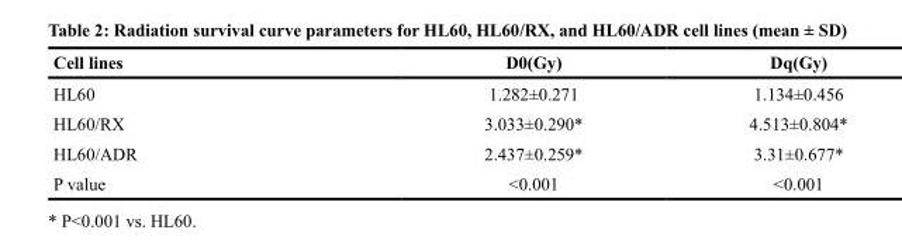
<table><thead><tr><td>Cell lines</td><td>D0(Gy)</td><td>Dq(Gy)</td></tr></thead><tbody><tr><td>HL60</td><td>1.282±0.271</td><td>1.134±0.456</td></tr><tr><td>HL60/RX</td><td>3.033±0.290*</td><td>4.513±0.804*</td></tr><tr><td>HL60/ADR</td><td>2.437±0.259*</td><td>3.31±0.677*</td></tr><tr><td>P value</td><td>&lt;0.001</td><td>&lt;0.001</td></tr></tbody></table>